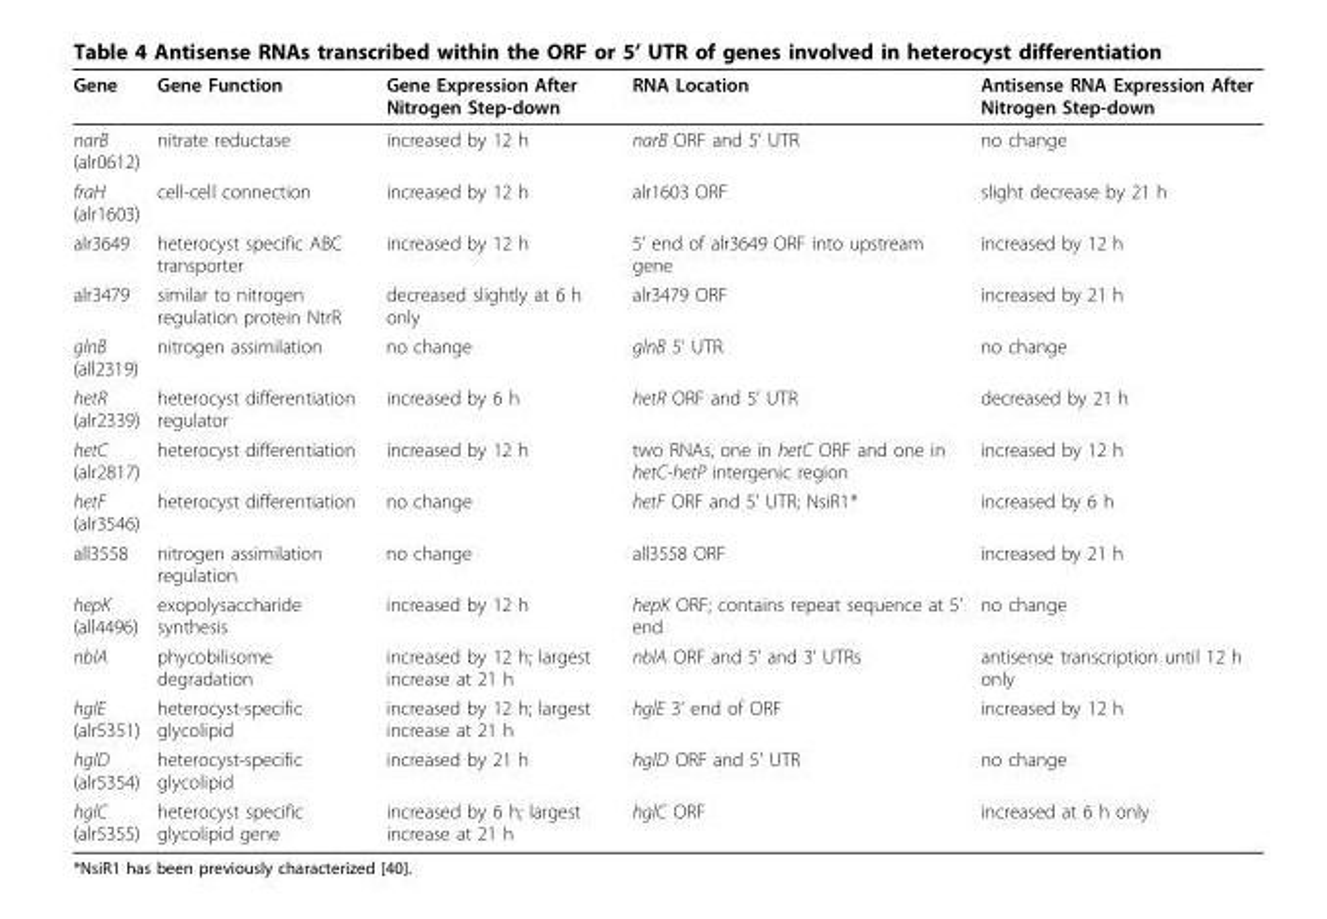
<table><thead><tr><td>Gene</td><td>Gene Function</td><td>Gene Expression After Nitrogen Step-down</td><td>RNA Location</td><td>Antisense RNA Expression After Nitrogen Step-down</td></tr></thead><tbody><tr><td>narB (alr0612)</td><td>nitrate reductase</td><td>increased by 12 h</td><td>narB ORF and 5’ UTR</td><td>no change</td></tr><tr><td>fraH (alr1603)</td><td>cell-cell connection</td><td>increased by 12 h</td><td>alr1603 ORF</td><td>slight decrease by 21 h</td></tr><tr><td>alr3649</td><td>heterocyst specific ABC transporter</td><td>increased by 12 h</td><td>5’ end of alr3649 ORF into upstream gene</td><td>increased by 12 h</td></tr><tr><td>alr3479</td><td>similar to nitrogen regulation protein NtrR</td><td>decreased slightly at 6 h only</td><td>alr3479 ORF</td><td>increased by 21 h</td></tr><tr><td>glnB (all2319)</td><td>nitrogen assimilation</td><td>no change</td><td>glnB 5’ UTR</td><td>no change</td></tr><tr><td>hetR (alr2339)</td><td>heterocyst differentiation regulator</td><td>increased by 6 h</td><td>hetR ORF and 5’ UTR</td><td>decreased by 21 h</td></tr><tr><td>hetC (alr2817)</td><td>heterocyst differentiation</td><td>increased by 12 h</td><td>two RNAs, one in hetC ORF and one in hetC-hetP intergenic region</td><td>increased by 12 h</td></tr><tr><td>hetF (alr3546)</td><td>heterocyst differentiation</td><td>no change</td><td>hetF ORF and 5’ UTR; NsiR1*</td><td>increased by 6 h</td></tr><tr><td>all3558</td><td>nitrogen assimilation regulation</td><td>no change</td><td>all3558 ORF</td><td>increased by 21 h</td></tr><tr><td>hepK (all4496)</td><td>exopolysaccharide synthesis</td><td>increased by 12 h</td><td>hepK ORF; contains repeat sequence at 5’ end</td><td>no change</td></tr><tr><td>nblA</td><td>phycobilisome degradation</td><td>increased by 12 h; largest increase at 21 h</td><td>nblA ORF and 5’ and 3’ UTRs</td><td>antisense transcription until 12 h only</td></tr><tr><td>hglE (alr5351)</td><td>heterocyst-specific glycolipid</td><td>increased by 12 h; largest increase at 21 h</td><td>hglE 3’ end of ORF</td><td>increased by 12 h</td></tr><tr><td>hglD (alr5354)</td><td>heterocyst-specific glycolipid</td><td>increased by 21 h</td><td>hglD ORF and 5’ UTR</td><td>no change</td></tr><tr><td>hglC (alr5355)</td><td>heterocyst specific glycolipid gene</td><td>increased by 6 h; largest increase at 21 h</td><td>hglC ORF</td><td>increased at 6 h only</td></tr></tbody></table>